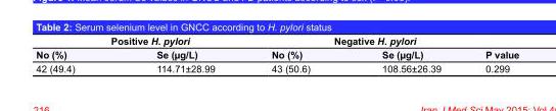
<table><thead><tr><td colspan="2">Positive H. pylori</td><td colspan="2">Negative H. pylori</td><td rowspan="2">P value</td></tr><tr><td>No (%)</td><td>Se (µg/L)</td><td>No (%)</td><td>Se (µg/L)</td></tr></thead><tbody><tr><td>42 (49.4)</td><td>114.71±28.99</td><td>43 (50.6)</td><td>108.56±26.39</td><td>0.299</td></tr></tbody></table>